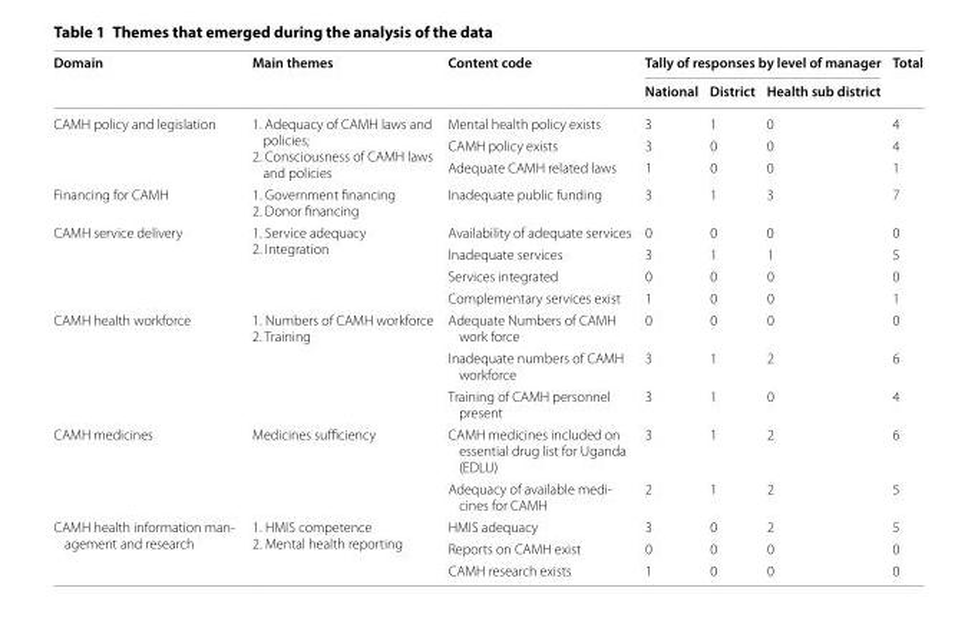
<table><thead><tr><td rowspan="2">Domain</td><td rowspan="2">Main themes</td><td rowspan="2">Content code</td><td colspan="3">Tally of responses by level of manager</td><td rowspan="2">Total</td></tr><tr><td>National</td><td>District</td><td>Health sub district</td></tr></thead><tbody><tr><td rowspan="3">CAMH policy and legislation</td><td rowspan="3">1. Adequacy of CAMH laws and policies; 2. Consciousness of CAMH laws and policies</td><td>Mental health policy exists</td><td>3</td><td>1</td><td>0</td><td>4</td></tr><tr><td>CAMH policy exists</td><td>3</td><td>0</td><td>0</td><td>4</td></tr><tr><td>Adequate CAMH related laws</td><td>1</td><td>0</td><td>0</td><td>1</td></tr><tr><td>Financing for CAMH</td><td>1. Government financing 2. Donor financing</td><td>Inadequate public funding</td><td>3</td><td>1</td><td>3</td><td>7</td></tr><tr><td rowspan="4">CAMH service delivery</td><td rowspan="4">1. Service adequacy 2. Integration</td><td>Availability of adequate services</td><td>0</td><td>0</td><td>0</td><td>0</td></tr><tr><td>Inadequate services</td><td>3</td><td>1</td><td>1</td><td>5</td></tr><tr><td>Services integrated</td><td>0</td><td>0</td><td>0</td><td>0</td></tr><tr><td>Complementary services exist</td><td>1</td><td>0</td><td>0</td><td>1</td></tr><tr><td rowspan="3">CAMH health workforce</td><td rowspan="3">1. Numbers of CAMH workforce 2. Training</td><td>Adequate Numbers of CAMH work force</td><td>0</td><td>0</td><td>0</td><td>0</td></tr><tr><td>Inadequate numbers of CAMH workforce</td><td>3</td><td>1</td><td>2</td><td>6</td></tr><tr><td>Training of CAMH personnel present</td><td>3</td><td>1</td><td>0</td><td>4</td></tr><tr><td rowspan="2">CAMH medicines</td><td rowspan="2">Medicines sufficiency</td><td>CAMH medicines included on essential drug list for Uganda (EDLU)</td><td>3</td><td>1</td><td>2</td><td>6</td></tr><tr><td>Adequacy of available medi- cines for CAMH</td><td>2</td><td>1</td><td>2</td><td>5</td></tr><tr><td rowspan="3">CAMH health information man- agement and research</td><td rowspan="3">1. HMIS competence 2. Mental health reporting</td><td>HMIS adequacy</td><td>3</td><td>0</td><td>2</td><td>5</td></tr><tr><td>Reports on CAMH exist</td><td>0</td><td>0</td><td>0</td><td>0</td></tr><tr><td>CAMH research exists</td><td>1</td><td>0</td><td>0</td><td>0</td></tr></tbody></table>